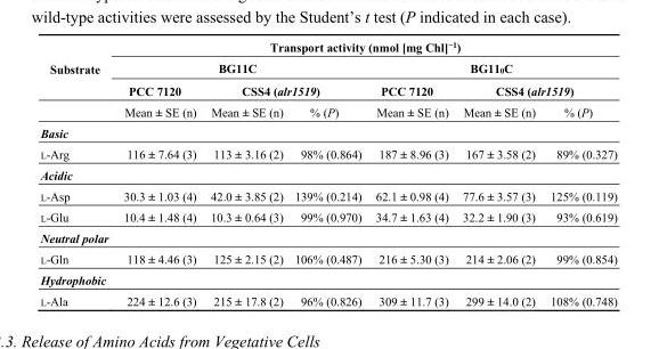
<table><thead><tr><td rowspan="4">Substrate</td><td colspan="6">Transport activity (nmol [mg Chl]<sup>−1</sup>)</td></tr><tr><td colspan="3">BG11C</td><td colspan="3">BG11<sub>0</sub>C</td></tr><tr><td rowspan="2">PCC 7120 Mean ± SE (n)</td><td colspan="2">CSS4 (alr1519)</td><td rowspan="2">PCC 7120 Mean ± SE (n)</td><td colspan="2">CSS4 (alr1519)</td></tr><tr><td>Mean ± SE (n)</td><td>% (P)</td><td>Mean ± SE (n)</td><td>% (P)</td></tr></thead><tbody><tr><td colspan="7">Basic</td></tr><tr><td>L-Arg</td><td>116 ± 7.64 (3)</td><td>113 ± 3.16 (2)</td><td>98% (0.864)</td><td>187 ± 8.96 (3)</td><td>167 ± 3.58 (2)</td><td>89% (0.327)</td></tr><tr><td colspan="7">Acidic</td></tr><tr><td>L-Asp</td><td>30.3 ± 1.03 (4)</td><td>42.0 ± 3.85 (2)</td><td>139% (0.214)</td><td>62.1 ± 0.98 (4)</td><td>77.6 ± 3.57 (3)</td><td>125% (0.119)</td></tr><tr><td>L-Glu</td><td>10.4 ± 1.48 (4)</td><td>10.3 ± 0.64 (3)</td><td>99% (0.970)</td><td>34.7 ± 1.63 (4)</td><td>32.2 ± 1.90 (3)</td><td>93% (0.619)</td></tr><tr><td colspan="7">Neutral polar</td></tr><tr><td>L-Gln</td><td>118 ± 4.46 (3)</td><td>125 ± 2.15 (2)</td><td>106% (0.487)</td><td>216 ± 5.30 (3)</td><td>214 ± 2.06 (2)</td><td>99% (0.854)</td></tr><tr><td colspan="7">Hydrophobic</td></tr><tr><td>L-Ala</td><td>224 ± 12.6 (3)</td><td>215 ± 17.8 (2)</td><td>96% (0.826)</td><td>309 ± 11.7 (3)</td><td>299 ± 14.0 (2)</td><td>108% (0.748)</td></tr></tbody></table>